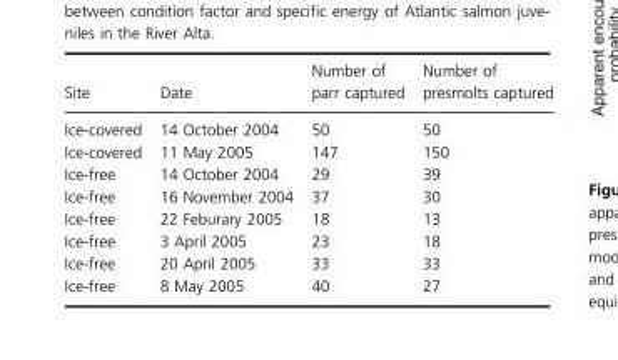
<table><thead><tr><td>Site</td><td>Date</td><td>Number of parr captured</td><td>Number of presmolts captured</td></tr></thead><tbody><tr><td>Ice-covered</td><td>14 October 2004</td><td>50</td><td>50</td></tr><tr><td>Ice-covered</td><td>11 May 2005</td><td>147</td><td>150</td></tr><tr><td>Ice-free</td><td>14 October 2004</td><td>29</td><td>39</td></tr><tr><td>Ice-free</td><td>16 November 2004</td><td>37</td><td>30</td></tr><tr><td>Ice-free</td><td>22 Feburary 2005</td><td>18</td><td>13</td></tr><tr><td>Ice-free</td><td>3 April 2005</td><td>23</td><td>18</td></tr><tr><td>Ice-free</td><td>20 April 2005</td><td>33</td><td>33</td></tr><tr><td>Ice-free</td><td>8 May 2005</td><td>40</td><td>27</td></tr></tbody></table>